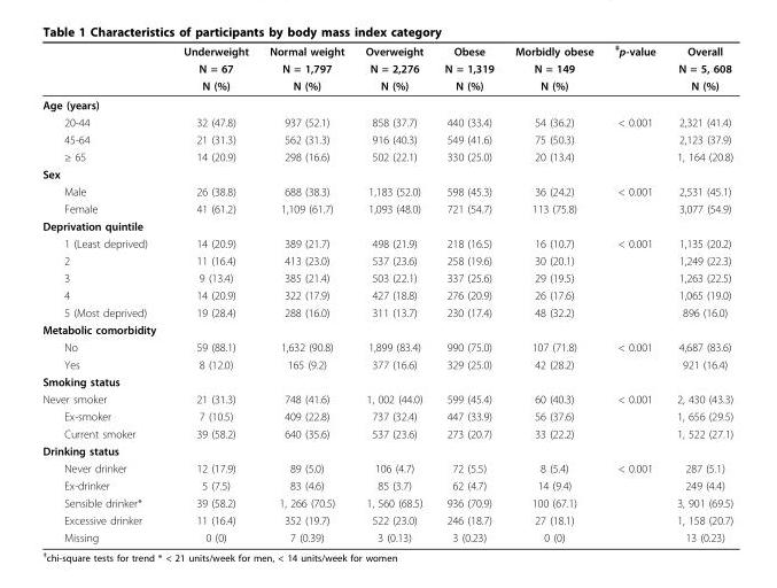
<table><thead><tr><td rowspan="3"></td><td rowspan="3">Underweight N = 67 N (%)</td><td rowspan="3">Normal weight N = 1,797 N (%)</td><td rowspan="3">Overweight N = 2,276 N (%)</td><td rowspan="3">Obese N = 1,319 N (%)</td><td rowspan="3">Morbidly obese N = 149 N (%)</td><td rowspan="3"><sup>‡</sup>p-value</td><td rowspan="3">Overall N = 5, 608 N (%)</td></tr><tr></tr><tr></tr></thead><tbody><tr><td colspan="8">Age (years)</td></tr><tr><td>20-44</td><td>32 (47.8)</td><td>937 (52.1)</td><td>858 (37.7)</td><td>440 (33.4)</td><td>54 (36.2)</td><td>&lt; 0.001</td><td>2,321 (41.4)</td></tr><tr><td>45-64</td><td>21 (31.3)</td><td>562 (31.3)</td><td>916 (40.3)</td><td>549 (41.6)</td><td>75 (50.3)</td><td></td><td>2,123 (37.9)</td></tr><tr><td>≥ 65</td><td>14 (20.9)</td><td>298 (16.6)</td><td>502 (22.1)</td><td>330 (25.0)</td><td>20 (13.4)</td><td></td><td>1, 164 (20.8)</td></tr><tr><td colspan="8">Sex</td></tr><tr><td>Male</td><td>26 (38.8)</td><td>688 (38.3)</td><td>1,183 (52.0)</td><td>598 (45.3)</td><td>36 (24.2)</td><td>&lt; 0.001</td><td>2,531 (45.1)</td></tr><tr><td>Female</td><td>41 (61.2)</td><td>1,109 (61.7)</td><td>1,093 (48.0)</td><td>721 (54.7)</td><td>113 (75.8)</td><td></td><td>3,077 (54.9)</td></tr><tr><td colspan="8">Deprivation quintile</td></tr><tr><td>1 (Least deprived)</td><td>14 (20.9)</td><td>389 (21.7)</td><td>498 (21.9)</td><td>218 (16.5)</td><td>16 (10.7)</td><td>&lt; 0.001</td><td>1,135 (20.2)</td></tr><tr><td>2</td><td>11 (16.4)</td><td>413 (23.0)</td><td>537 (23.6)</td><td>258 (19.6)</td><td>30 (20.1)</td><td></td><td>1,249 (22.3)</td></tr><tr><td>3</td><td>9 (13.4)</td><td>385 (21.4)</td><td>503 (22.1)</td><td>337 (25.6)</td><td>29 (19.5)</td><td></td><td>1,263 (22.5)</td></tr><tr><td>4</td><td>14 (20.9)</td><td>322 (17.9)</td><td>427 (18.8)</td><td>276 (20.9)</td><td>26 (17.6)</td><td></td><td>1,065 (19.0)</td></tr><tr><td>5 (Most deprived)</td><td>19 (28.4)</td><td>288 (16.0)</td><td>311 (13.7)</td><td>230 (17.4)</td><td>48 (32.2)</td><td></td><td>896 (16.0)</td></tr><tr><td colspan="8">Metabolic comorbidity</td></tr><tr><td>No</td><td>59 (88.1)</td><td>1,632 (90.8)</td><td>1,899 (83.4)</td><td>990 (75.0)</td><td>107 (71.8)</td><td>&lt; 0.001</td><td>4,687 (83.6)</td></tr><tr><td>Yes</td><td>8 (12.0)</td><td>165 (9.2)</td><td>377 (16.6)</td><td>329 (25.0)</td><td>42 (28.2)</td><td></td><td>921 (16.4)</td></tr><tr><td colspan="8">Smoking status</td></tr><tr><td>Never smoker</td><td>21 (31.3)</td><td>748 (41.6)</td><td>1, 002 (44.0)</td><td>599 (45.4)</td><td>60 (40.3)</td><td>&lt; 0.001</td><td>2, 430 (43.3)</td></tr><tr><td>Ex-smoker</td><td>7 (10.5)</td><td>409 (22.8)</td><td>737 (32.4)</td><td>447 (33.9)</td><td>56 (37.6)</td><td></td><td>1, 656 (29.5)</td></tr><tr><td>Current smoker</td><td>39 (58.2)</td><td>640 (35.6)</td><td>537 (23.6)</td><td>273 (20.7)</td><td>33 (22.2)</td><td></td><td>1, 522 (27.1)</td></tr><tr><td colspan="8">Drinking status</td></tr><tr><td>Never drinker</td><td>12 (17.9)</td><td>89 (5.0)</td><td>106 (4.7)</td><td>72 (5.5)</td><td>8 (5.4)</td><td>&lt; 0.001</td><td>287 (5.1)</td></tr><tr><td>Ex-drinker</td><td>5 (7.5)</td><td>83 (4.6)</td><td>85 (3.7)</td><td>62 (4.7)</td><td>14 (9.4)</td><td></td><td>249 (4.4)</td></tr><tr><td>Sensible drinker*</td><td>39 (58.2)</td><td>1, 266 (70.5)</td><td>1, 560 (68.5)</td><td>936 (70.9)</td><td>100 (67.1)</td><td></td><td>3, 901 (69.5)</td></tr><tr><td>Excessive drinker</td><td>11 (16.4)</td><td>352 (19.7)</td><td>522 (23.0)</td><td>246 (18.7)</td><td>27 (18.1)</td><td></td><td>1, 158 (20.7)</td></tr><tr><td>Missing</td><td>0 (0)</td><td>7 (0.39)</td><td>3 (0.13)</td><td>3 (0.23)</td><td>0 (0)</td><td></td><td>13 (0.23)</td></tr></tbody></table>